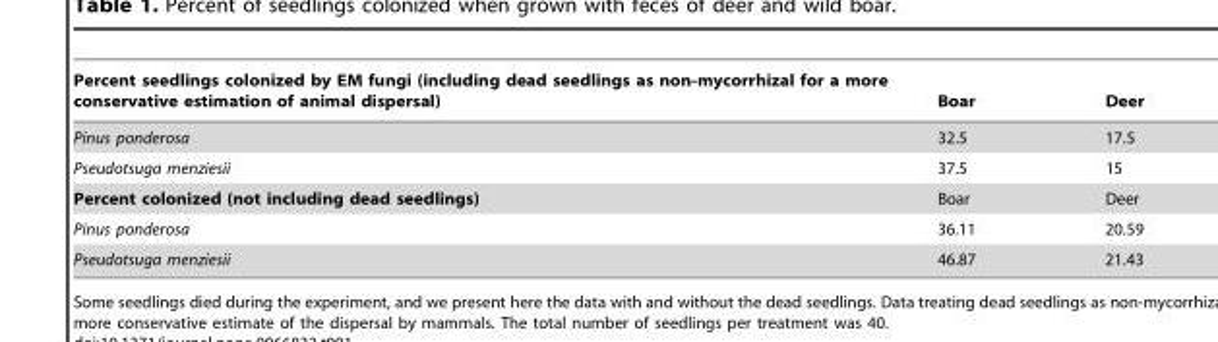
<table><thead><tr><td>Percent seedlings colonized by EM fungi (including dead seedlings as non-mycorrhizal for a more conservative estimation of animal dispersal)</td><td>Boar</td><td>Deer</td></tr></thead><tbody><tr><td>Pinus ponderosa</td><td>32.5</td><td>17.5</td></tr><tr><td>Pseudotsuga menziesii</td><td>37.5</td><td>15</td></tr><tr><td>Percent colonized (not including dead seedlings)</td><td>Boar</td><td>Deer</td></tr><tr><td>Pinus ponderosa</td><td>36.11</td><td>20.59</td></tr><tr><td>Pseudotsuga menziesii</td><td>46.87</td><td>21.43</td></tr></tbody></table>